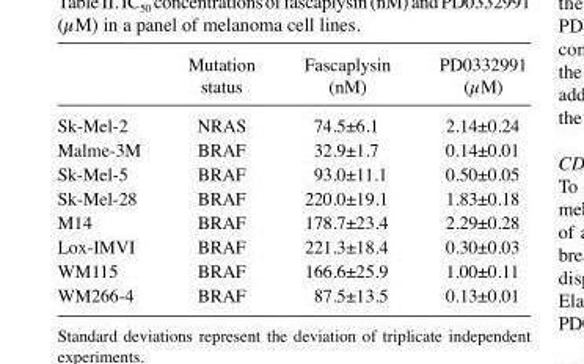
<table><thead><tr><td></td><td>Mutation status</td><td>Fascaplysin (nM)</td><td>PD0332991 (µM)</td></tr></thead><tbody><tr><td>Sk-Mel-2</td><td>NRAS</td><td>74.5±6.1</td><td>2.14±0.24</td></tr><tr><td>Malme-3M</td><td>BRAF</td><td>32.9±1.7</td><td>0.14±0.01</td></tr><tr><td>Sk-Mel-5</td><td>BRAF</td><td>93.0±11.1</td><td>0.50±0.05</td></tr><tr><td>Sk-Mel-28</td><td>BRAF</td><td>220.0±19.1</td><td>1.83±0.18</td></tr><tr><td>M14</td><td>BRAF</td><td>178.7±23.4</td><td>2.29±0.28</td></tr><tr><td>Lox-IMVI</td><td>BRAF</td><td>221.3±18.4</td><td>0.30±0.03</td></tr><tr><td>wM115</td><td>BRAF</td><td>166.6±25.9</td><td>1.00±0.11</td></tr><tr><td>wM266-4</td><td>BRAF</td><td>87.5±13.5</td><td>0.13±0.01</td></tr></tbody></table>